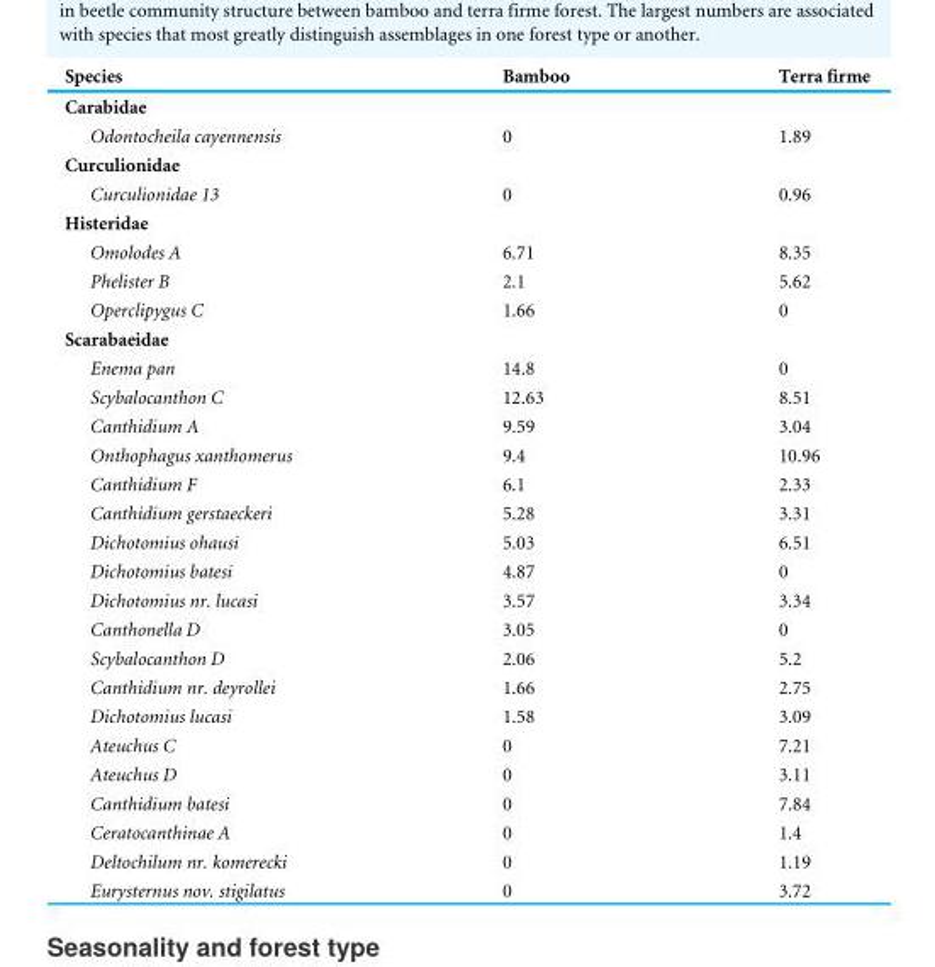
<table><thead><tr><td>Species</td><td>Bamboo</td><td>Terra firme</td></tr></thead><tbody><tr><td colspan="3">Carabidae</td></tr><tr><td>Odontocheila cayennensis</td><td>0</td><td>1.89</td></tr><tr><td colspan="3">Curculionidae</td></tr><tr><td>Curculionidae 13</td><td>0</td><td>0.96</td></tr><tr><td colspan="3">Histeridae</td></tr><tr><td>Omolodes A</td><td>6.71</td><td>8.35</td></tr><tr><td>Phelister B</td><td>2.1</td><td>5.62</td></tr><tr><td>Operclipygus C</td><td>1.66</td><td>0</td></tr><tr><td colspan="3">Scarabaeidae</td></tr><tr><td>Enema pan</td><td>14.8</td><td>0</td></tr><tr><td>Scybalocanthon C</td><td>12.63</td><td>8.51</td></tr><tr><td>Canthidium A</td><td>9.59</td><td>3.04</td></tr><tr><td>Onthophagus xanthomerus</td><td>9.4</td><td>10.96</td></tr><tr><td>Canthidium F</td><td>6.1</td><td>2.33</td></tr><tr><td>Canthidium gerstaeckeri</td><td>5.28</td><td>3.31</td></tr><tr><td>Dichotomius ohausi</td><td>5.03</td><td>6.51</td></tr><tr><td>Dichotomius batesi</td><td>4.87</td><td>0</td></tr><tr><td>Dichotomius nr. lucasi</td><td>3.57</td><td>3.34</td></tr><tr><td>Canthonella D</td><td>3.05</td><td>0</td></tr><tr><td>Scybalocanthon D</td><td>2.06</td><td>5.2</td></tr><tr><td>Canthidium nr. deyrollei</td><td>1.66</td><td>2.75</td></tr><tr><td>Dichotomius lucasi</td><td>1.58</td><td>3.09</td></tr><tr><td>Ateuchus C</td><td>0</td><td>7.21</td></tr><tr><td>Ateuchus D</td><td>0</td><td>3.11</td></tr><tr><td>Canthidium batesi</td><td>0</td><td>7.84</td></tr><tr><td>Ceratocanthinae A</td><td>0</td><td>1.4</td></tr><tr><td>Deltochilum nr. komerecki</td><td>0</td><td>1.19</td></tr><tr><td>Eurysternus nov. stigilatus</td><td>0</td><td>3.72</td></tr></tbody></table>